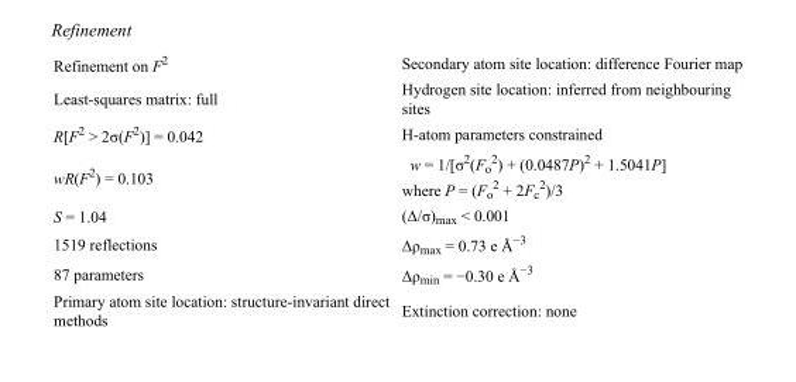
<table><tbody><tr><td>Refinement on F<sup>2</sup></td><td>Secondary atom site location: difference Fourier map</td></tr><tr><td>Least-squares matrix: full</td><td>Hydrogen site location: inferred from neighbouring sites</td></tr><tr><td>R[F<sup>2</sup> &gt; 2σ(F<sup>2</sup>)] = 0.042</td><td>H-atom parameters constrained</td></tr><tr><td>wR(F<sup>2</sup>) = 0.103</td><td>w = 1/[σ<sup>2</sup>(F<sub>o</sub> <sup>2</sup>) + (0.0487P)<sup>2</sup> + 1.5041P] where P = (F<sub>o</sub> <sup>2</sup> + 2F<sub>c</sub> <sup>2</sup>)/3</td></tr><tr><td>S = 1.04</td><td>(Δ/σ)<sub>max</sub> &lt; 0.001</td></tr><tr><td>1519 reflections</td><td>Δρ<sub>max</sub> = 0.73 e Å<sup>−3</sup></td></tr><tr><td>87 parameters</td><td>Δρ<sub>min</sub> = −0.30 e Å<sup>−3</sup></td></tr><tr><td>Primary atom site location: structure-invariant direct methods</td><td>Extinction correction: none</td></tr></tbody></table>